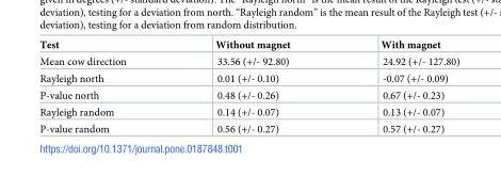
<table><thead><tr><td>Test</td><td>Without magnet</td><td>With magnet</td></tr></thead><tbody><tr><td>Mean cow direction</td><td>33.56 (+/- 92.80)</td><td>24.92 (+/- 127.80)</td></tr><tr><td>Rayleigh north</td><td>0.01 (+/- 0.10)</td><td>-0.07 (+/- 0.09)</td></tr><tr><td>P-value north</td><td>0.48 (+/- 0.26)</td><td>0.67 (+/- 0.23)</td></tr><tr><td>Rayleigh random</td><td>0.14 (+/- 0.07)</td><td>0.13 (+/- 0.07)</td></tr><tr><td>P-value random</td><td>0.56 (+/- 0.27)</td><td>0.57 (+/- 0.27)</td></tr></tbody></table>